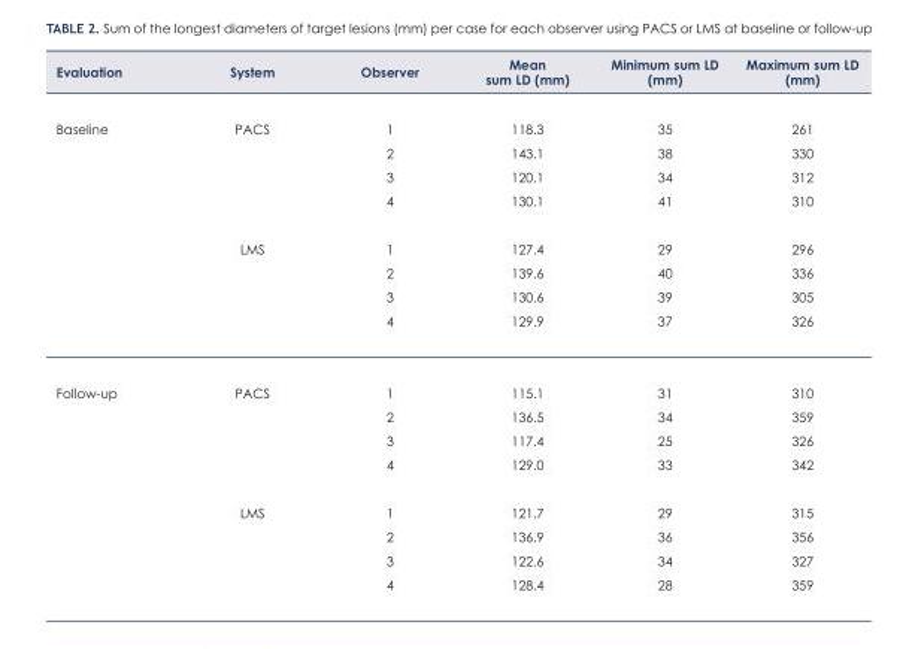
<table><thead><tr><td>Evaluation</td><td>System</td><td>Observer</td><td>Mean sum LD (mm)</td><td>Minimum sum LD (mm)</td><td>Maximum sum LD (mm)</td></tr></thead><tbody><tr><td rowspan="8">Baseline</td><td>PACS</td><td>1</td><td>118.3</td><td>35</td><td>261</td></tr><tr><td></td><td>2</td><td>143.1</td><td>38</td><td>330</td></tr><tr><td></td><td>3</td><td>120.1</td><td>34</td><td>312</td></tr><tr><td></td><td>4</td><td>130.1</td><td>41</td><td>310</td></tr><tr><td>LMS</td><td>1</td><td>127.4</td><td>29</td><td>296</td></tr><tr><td></td><td>2</td><td>139.6</td><td>40</td><td>336</td></tr><tr><td></td><td>3</td><td>130.6</td><td>39</td><td>305</td></tr><tr><td></td><td>4</td><td>129.9</td><td>37</td><td>326</td></tr><tr><td rowspan="8">Follow-up</td><td>PACS</td><td>1</td><td>115.1</td><td>31</td><td>310</td></tr><tr><td></td><td>2</td><td>136.5</td><td>34</td><td>359</td></tr><tr><td></td><td>3</td><td>117.4</td><td>25</td><td>326</td></tr><tr><td></td><td>4</td><td>129.0</td><td>33</td><td>342</td></tr><tr><td>LMS</td><td>1</td><td>121.7</td><td>29</td><td>315</td></tr><tr><td></td><td>2</td><td>136.9</td><td>36</td><td>356</td></tr><tr><td></td><td>3</td><td>122.6</td><td>34</td><td>327</td></tr><tr><td></td><td>4</td><td>128.4</td><td>28</td><td>359</td></tr></tbody></table>